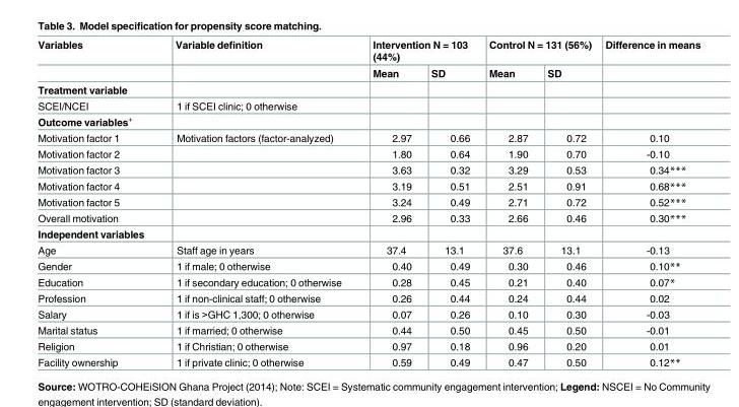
<table><thead><tr><td rowspan="2">Variables</td><td rowspan="2">Variable definition</td><td colspan="2">Intervention N = 103 (44%)</td><td colspan="2">Control N = 131 (56%)</td><td rowspan="2">Difference in means</td></tr><tr><td>Mean</td><td>SD</td><td>Mean</td><td>SD</td></tr></thead><tbody><tr><td colspan="7">Treatment variable</td></tr><tr><td>SCEI/NCEI</td><td>1 if SCEI clinic; 0 otherwise</td><td></td><td></td><td></td><td></td><td></td></tr><tr><td colspan="7">Outcome variables<sup>+</sup></td></tr><tr><td>Motivation factor 1</td><td>Motivation factors (factor-analyzed)</td><td>2.97</td><td>0.66</td><td>2.87</td><td>0.72</td><td>0.10</td></tr><tr><td>Motivation factor 2</td><td></td><td>1.80</td><td>0.64</td><td>1.90</td><td>0.70</td><td>-0.10</td></tr><tr><td>Motivation factor 3</td><td></td><td>3.63</td><td>0.32</td><td>3.29</td><td>0.53</td><td>0.34***</td></tr><tr><td>Motivation factor 4</td><td></td><td>3.19</td><td>0.51</td><td>2.51</td><td>0.91</td><td>0.68***</td></tr><tr><td>Motivation factor 5</td><td></td><td>3.24</td><td>0.49</td><td>2.71</td><td>0.72</td><td>0.52***</td></tr><tr><td>Overall motivation</td><td></td><td>2.96</td><td>0.33</td><td>2.66</td><td>0.46</td><td>0.30***</td></tr><tr><td colspan="7">Independent variables</td></tr><tr><td>Age</td><td>Staff age in years</td><td>37.4</td><td>13.1</td><td>37.6</td><td>13.1</td><td>-0.13</td></tr><tr><td>Gender</td><td>1 if male; 0 otherwise</td><td>0.40</td><td>0.49</td><td>0.30</td><td>0.46</td><td>0.10**</td></tr><tr><td>Education</td><td>1 if secondary education; 0 otherwise</td><td>0.28</td><td>0.45</td><td>0.21</td><td>0.40</td><td>0.07*</td></tr><tr><td>Profession</td><td>1 if non-clinical staff; 0 otherwise</td><td>0.26</td><td>0.44</td><td>0.24</td><td>0.44</td><td>0.02</td></tr><tr><td>Salary</td><td>1 if is &gt;GHC 1,300; 0 otherwise</td><td>0.07</td><td>0.26</td><td>0.10</td><td>0.30</td><td>-0.03</td></tr><tr><td>Marital status</td><td>1 if married; 0 otherwise</td><td>0.44</td><td>0.50</td><td>0.45</td><td>0.50</td><td>-0.01</td></tr><tr><td>Religion</td><td>1 if Christian; 0 otherwise</td><td>0.97</td><td>0.18</td><td>0.96</td><td>0.20</td><td>0.01</td></tr><tr><td>Facility ownership</td><td>1 if private clinic; 0 otherwise</td><td>0.59</td><td>0.49</td><td>0.47</td><td>0.50</td><td>0.12**</td></tr></tbody></table>